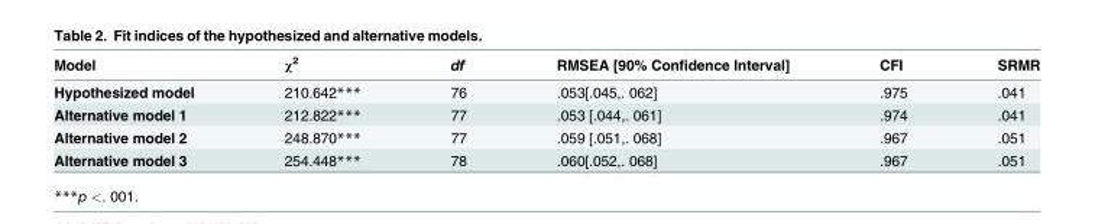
<table><thead><tr><td>Model</td><td>χ<sup>2</sup></td><td>df</td><td>RMSEA [90% Confidence Interval]</td><td>CFI</td><td>SRMR</td></tr></thead><tbody><tr><td>Hypothesized model</td><td>210.642***</td><td>76</td><td>.053[.045,. 062]</td><td>.975</td><td>.041</td></tr><tr><td>Alternative model 1</td><td>212.822***</td><td>77</td><td>.053 [.044,. 061]</td><td>.974</td><td>.041</td></tr><tr><td>Alternative model 2</td><td>248.870***</td><td>77</td><td>.059 [.051,. 068]</td><td>.967</td><td>.051</td></tr><tr><td>Alternative model 3</td><td>254.448***</td><td>78</td><td>.060[.052,. 068]</td><td>.967</td><td>.051</td></tr></tbody></table>